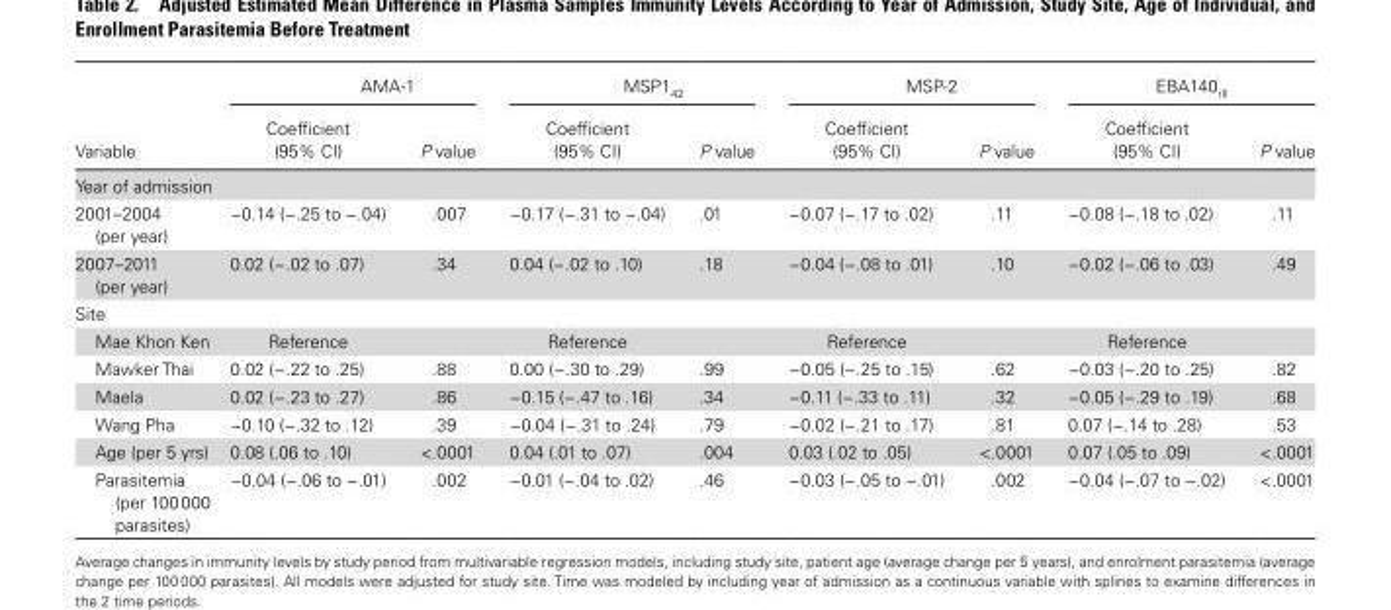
<table><thead><tr><td rowspan="2">Variable</td><td colspan="2">AMA-1</td><td colspan="2">MSP142</td><td colspan="2">MSP-2</td><td colspan="2">EBA140rII</td></tr><tr><td>Coefficient (95% CI)</td><td>P value</td><td>Coefficient (95% CI)</td><td>P value</td><td>Coefficient (95% CI)</td><td>P value</td><td>Coefficient (95% CI)</td><td>P value</td></tr></thead><tbody><tr><td colspan="9">Year of admission</td></tr><tr><td>2001–2004 (per year)</td><td>−0.14 (−.25 to −.04)</td><td>.007</td><td>−0.17 (−.31 to −.04)</td><td>.01</td><td>−0.07 (−.17 to .02)</td><td>.11</td><td>−0.08 (−.18 to .02)</td><td>.11</td></tr><tr><td>2007–2011 (per year)</td><td>0.02 (−.02 to .07)</td><td>.34</td><td>0.04 (−.02 to .10)</td><td>.18</td><td>−0.04 (−.08 to .01)</td><td>.10</td><td>−0.02 (−.06 to .03)</td><td>.49</td></tr><tr><td colspan="9">Site</td></tr><tr><td>Mae Khon Ken</td><td>Reference</td><td></td><td>Reference</td><td></td><td>Reference</td><td></td><td>Reference</td><td></td></tr><tr><td>Mawker Thai</td><td>0.02 (−.22 to .25)</td><td>.88</td><td>0.00 (−.30 to .29)</td><td>.99</td><td>−0.05 (−.25 to .15)</td><td>.62</td><td>−0.03 (−.20 to .25)</td><td>.82</td></tr><tr><td>Maela</td><td>0.02 (−.23 to .27)</td><td>.86</td><td>−0.15 (−.47 to .16)</td><td>.34</td><td>−0.11 (−.33 to .11)</td><td>.32</td><td>−0.05 (−.29 to .19)</td><td>.68</td></tr><tr><td>Wang Pha</td><td>−0.10 (−.32 to .12)</td><td>.39</td><td>−0.04 (−.31 to .24)</td><td>.79</td><td>−0.02 (−.21 to .17)</td><td>.81</td><td>0.07 (−.14 to .28)</td><td>.53</td></tr><tr><td>Age (per 5 yrs)</td><td>0.08 (.06 to .10)</td><td>&lt;.0001</td><td>0.04 (.01 to .07)</td><td>.004</td><td>0.03 (.02 to .05)</td><td>&lt;.0001</td><td>0.07 (.05 to .09)</td><td>&lt;.0001</td></tr><tr><td>Parasitemia (per 100 000 parasites)</td><td>−0.04 (−.06 to −.01)</td><td>.002</td><td>−0.01 (−.04 to .02)</td><td>.46</td><td>−0.03 (−.05 to −.01)</td><td>.002</td><td>−0.04 (−.07 to −.02)</td><td>&lt;.0001</td></tr></tbody></table>